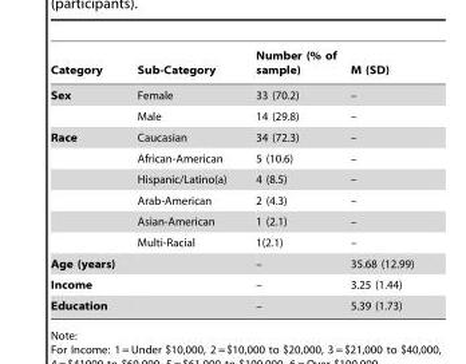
<table><thead><tr><td>Category</td><td>Sub-Category</td><td>Number (% of sample)</td><td>M (SD)</td></tr></thead><tbody><tr><td rowspan="2">Sex</td><td>Female</td><td>33 (70.2)</td><td>–</td></tr><tr><td>Male</td><td>14 (29.8)</td><td>–</td></tr><tr><td rowspan="6">Race</td><td>Caucasian</td><td>34 (72.3)</td><td>–</td></tr><tr><td>African-American</td><td>5 (10.6)</td><td>–</td></tr><tr><td>Hispanic/Latino(a)</td><td>4 (8.5)</td><td>–</td></tr><tr><td>Arab-American</td><td>2 (4.3)</td><td>–</td></tr><tr><td>Asian-American</td><td>1 (2.1)</td><td>–</td></tr><tr><td>Multi-Racial</td><td>1(2.1)</td><td>–</td></tr><tr><td>Age (years)</td><td></td><td>–</td><td>35.68 (12.99)</td></tr><tr><td>Income</td><td></td><td>–</td><td>3.25 (1.44)</td></tr><tr><td>Education</td><td></td><td>–</td><td>5.39 (1.73)</td></tr></tbody></table>